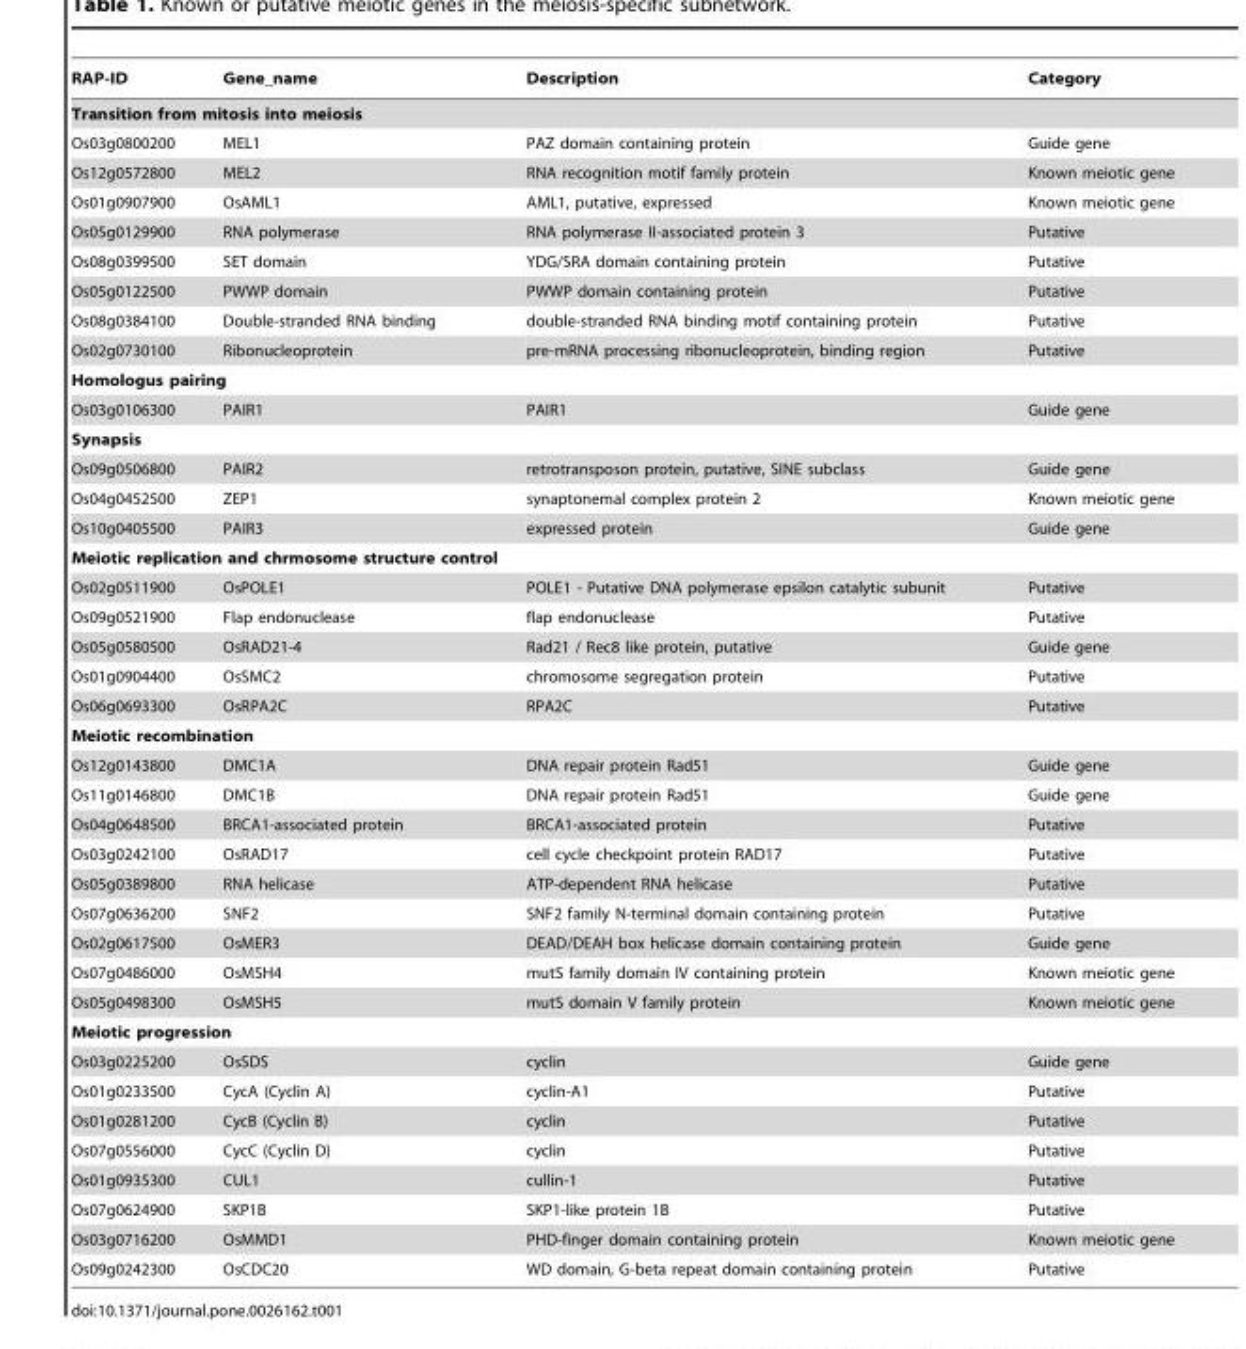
<table><thead><tr><td>RAP-ID</td><td>Gene_name</td><td>Description</td><td>Category</td></tr></thead><tbody><tr><td colspan="4">Transition from mitosis into meiosis</td></tr><tr><td>Os03g0800200</td><td>MEL1</td><td>PAZ domain containing protein</td><td>Guide gene</td></tr><tr><td>Os12g0572800</td><td>MEL2</td><td>RNA recognition motif family protein</td><td>Known meiotic gene</td></tr><tr><td>Os01g0907900</td><td>OsAML1</td><td>AML1, putative, expressed</td><td>Known meiotic gene</td></tr><tr><td>Os05g0129900</td><td>RNA polymerase</td><td>RNA polymerase II-associated protein 3</td><td>Putative</td></tr><tr><td>Os08g0399500</td><td>SET domain</td><td>YDG/SRA domain containing protein</td><td>Putative</td></tr><tr><td>Os05g0122500</td><td>PWWP domain</td><td>PWWP domain containing protein</td><td>Putative</td></tr><tr><td>Os08g0384100</td><td>Double-stranded RNA binding</td><td>double-stranded RNA binding motif containing protein</td><td>Putative</td></tr><tr><td>Os02g0730100</td><td>Ribonucleoprotein</td><td>pre-mRNA processing ribonucleoprotein, binding region</td><td>Putative</td></tr><tr><td colspan="4">Homologus pairing</td></tr><tr><td>Os03g0106300</td><td>PAIR1</td><td>PAIR1</td><td>Guide gene</td></tr><tr><td colspan="4">Synapsis</td></tr><tr><td>Os09g0506800</td><td>PAIR2</td><td>retrotransposon protein, putative, SINE subclass</td><td>Guide gene</td></tr><tr><td>Os04g0452500</td><td>ZEP1</td><td>synaptonemal complex protein 2</td><td>Known meiotic gene</td></tr><tr><td>Os10g0405500</td><td>PAIR3</td><td>expressed protein</td><td>Guide gene</td></tr><tr><td colspan="4">Meiotic replication and chrmosome structure control</td></tr><tr><td>Os02g0511900</td><td>OsPOLE1</td><td>POLE1 - Putative DNA polymerase epsilon catalytic subunit</td><td>Putative</td></tr><tr><td>Os09g0521900</td><td>Flap endonuclease</td><td>flap endonuclease</td><td>Putative</td></tr><tr><td>Os05g0580500</td><td>OsRAD21-4</td><td>Rad21 / Rec8 like protein, putative</td><td>Guide gene</td></tr><tr><td>Os01g0904400</td><td>OsSMC2</td><td>chromosome segregation protein</td><td>Putative</td></tr><tr><td>Os06g0693300</td><td>OsRPA2C</td><td>RPA2C</td><td>Putative</td></tr><tr><td colspan="4">Meiotic recombination</td></tr><tr><td>Os12g0143800</td><td>DMC1A</td><td>DNA repair protein Rad51</td><td>Guide gene</td></tr><tr><td>Os11g0146800</td><td>DMC1B</td><td>DNA repair protein Rad51</td><td>Guide gene</td></tr><tr><td>Os04g0648500</td><td>BRCA1-associated protein</td><td>BRCA1-associated protein</td><td>Putative</td></tr><tr><td>Os03g0242100</td><td>OsRAD17</td><td>cell cycle checkpoint protein RAD17</td><td>Putative</td></tr><tr><td>Os05g0389800</td><td>RNA helicase</td><td>ATP-dependent RNA helicase</td><td>Putative</td></tr><tr><td>Os07g0636200</td><td>SNF2</td><td>SNF2 family N-terminal domain containing protein</td><td>Putative</td></tr><tr><td>Os02g0617500</td><td>OsMER3</td><td>DEAD/DEAH box helicase domain containing protein</td><td>Guide gene</td></tr><tr><td>Os07g0486000</td><td>OsMSH4</td><td>mutS family domain IV containing protein</td><td>Known meiotic gene</td></tr><tr><td>Os05g0498300</td><td>OsMSH5</td><td>mutS domain V family protein</td><td>Known meiotic gene</td></tr><tr><td colspan="4">Meiotic progression</td></tr><tr><td>Os03g0225200</td><td>OsSDS</td><td>cyclin</td><td>Guide gene</td></tr><tr><td>Os01g0233500</td><td>CycA (Cyclin A)</td><td>cyclin-A1</td><td>Putative</td></tr><tr><td>Os01g0281200</td><td>CycB (Cyclin B)</td><td>cyclin</td><td>Putative</td></tr><tr><td>Os07g0556000</td><td>CycC (Cyclin D)</td><td>cyclin</td><td>Putative</td></tr><tr><td>Os01g0935300</td><td>CUL1</td><td>cullin-1</td><td>Putative</td></tr><tr><td>Os07g0624900</td><td>SKP1B</td><td>SKP1-like protein 1B</td><td>Putative</td></tr><tr><td>Os03g0716200</td><td>OsMMD1</td><td>PHD-finger domain containing protein</td><td>Known meiotic gene</td></tr><tr><td>Os09g0242300</td><td>OsCDC20</td><td>WD domain, G-beta repeat domain containing protein</td><td>Putative</td></tr></tbody></table>